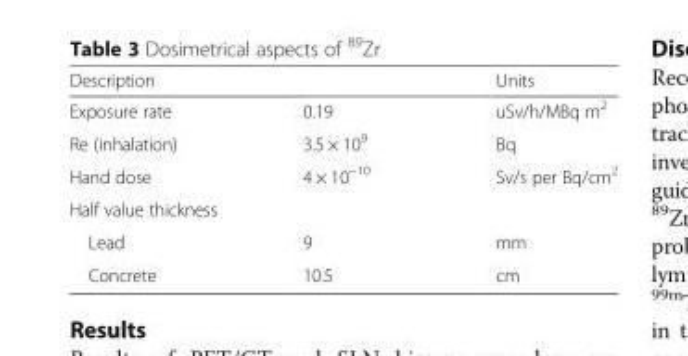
<table><thead><tr><td>Description</td><td></td><td>Units</td></tr></thead><tbody><tr><td>Exposure rate</td><td>0.19</td><td>uSv/h/MBq m<sup>2</sup></td></tr><tr><td>Re (inhalation)</td><td>3.5 × 10<sup>9</sup></td><td>Bq</td></tr><tr><td>Hand dose</td><td>4 × 10<sup>−10</sup></td><td>Sv/s per Bq/cm<sup>2</sup></td></tr><tr><td colspan="3">Half value thickness</td></tr><tr><td>Lead</td><td>9</td><td>mm</td></tr><tr><td>Concrete</td><td>10.5</td><td>cm</td></tr></tbody></table>